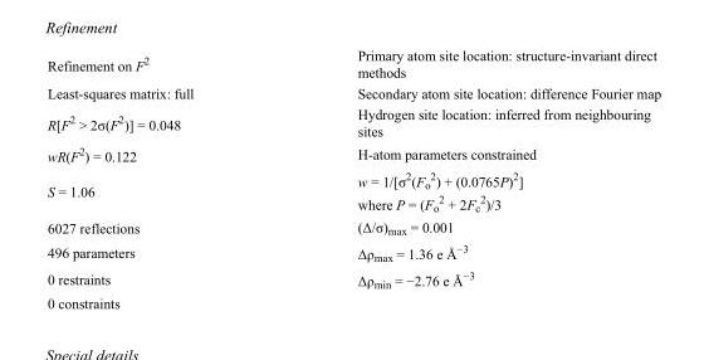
<table><tbody><tr><td>Refinement on F<sup>2</sup></td><td>Primary atom site location: structure-invariant direct methods</td></tr><tr><td>Least-squares matrix: full</td><td>Secondary atom site location: difference Fourier map</td></tr><tr><td>R[F<sup>2</sup> &gt; 2σ(F<sup>2</sup>)] = 0.048</td><td>Hydrogen site location: inferred from neighbouring sites</td></tr><tr><td>wR(F<sup>2</sup>) = 0.122</td><td>H-atom parameters constrained</td></tr><tr><td>S = 1.06</td><td>w = 1/[σ<sup>2</sup>(F<sub>o</sub> <sup>2</sup>) + (0.0765P)<sup>2</sup>] where P = (F<sub>o</sub> <sup>2</sup> + 2F<sub>c</sub> <sup>2</sup>)/3</td></tr><tr><td>6027 reflections</td><td>(Δ/σ)<sub>max</sub> = 0.001</td></tr><tr><td>496 parameters</td><td>Δρ<sub>max</sub> = 1.36 e Å<sup>−3</sup></td></tr><tr><td>0 restraints</td><td>Δρ<sub>min</sub> = −2.76 e Å<sup>−3</sup></td></tr><tr><td>0 constraints</td><td></td></tr></tbody></table>